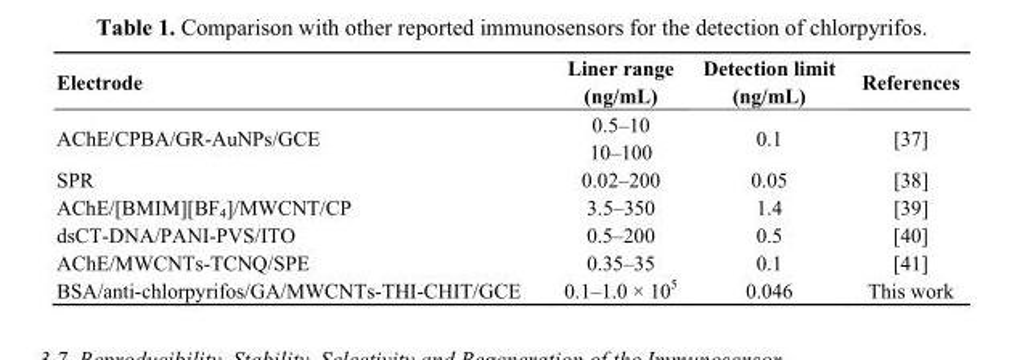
<table><thead><tr><td>Electrode</td><td>Liner range (ng/mL)</td><td>Detection limit (ng/mL)</td><td>References</td></tr></thead><tbody><tr><td rowspan="2">AChE/CPBA/GR-AuNPs/GCE</td><td>0.5–10</td><td rowspan="2">0.1</td><td rowspan="2">[37]</td></tr><tr><td>10–100</td></tr><tr><td>SPR</td><td>0.02–200</td><td>0.05</td><td>[38]</td></tr><tr><td>AChE/[BMIM][BF<sub>4</sub>]/MWCNT/CP</td><td>3.5–350</td><td>1.4</td><td>[39]</td></tr><tr><td>dsCT-DNA/PANI-PVS/ITO</td><td>0.5–200</td><td>0.5</td><td>[40]</td></tr><tr><td>AChE/MWCNTs-TCNQ/SPE</td><td>0.35–35</td><td>0.1</td><td>[41]</td></tr><tr><td>BSA/anti-chlorpyrifos/GA/MWCNTs-THI-CHIT/GCE</td><td>0.1–1.0 × 10<sup>5</sup></td><td>0.046</td><td>This work</td></tr></tbody></table>